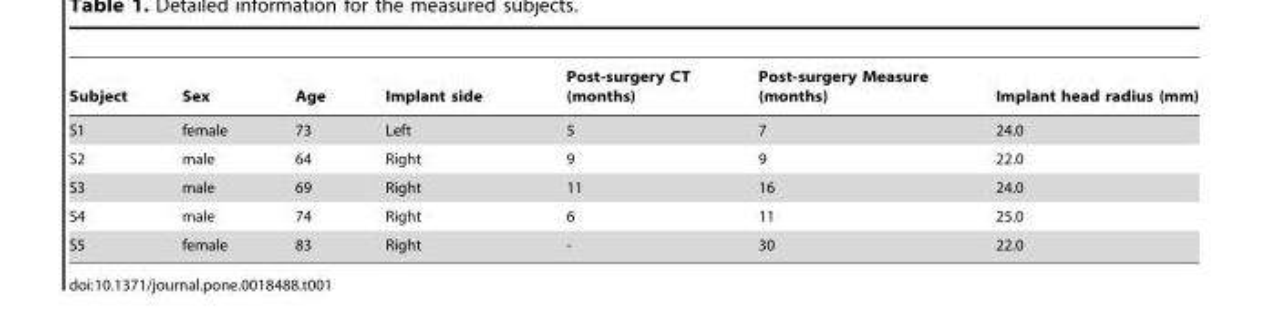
<table><thead><tr><td>Subject</td><td>Sex</td><td>Age</td><td>Implant side</td><td>Post-surgery CT (months)</td><td>Post-surgery Measure (months)</td><td>Implant head radius (mm)</td></tr></thead><tbody><tr><td>S1</td><td>female</td><td>73</td><td>Left</td><td>5</td><td>7</td><td>24.0</td></tr><tr><td>S2</td><td>male</td><td>64</td><td>Right</td><td>9</td><td>9</td><td>22.0</td></tr><tr><td>S3</td><td>male</td><td>69</td><td>Right</td><td>11</td><td>16</td><td>24.0</td></tr><tr><td>S4</td><td>male</td><td>74</td><td>Right</td><td>6</td><td>11</td><td>25.0</td></tr><tr><td>S5</td><td>female</td><td>83</td><td>Right</td><td>-</td><td>30</td><td>22.0</td></tr></tbody></table>